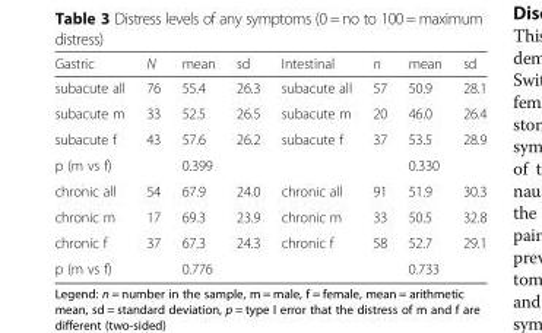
<table><thead><tr><td>Gastric</td><td>N</td><td>mean</td><td>sd</td><td>Intestinal</td><td>n</td><td>mean</td><td>sd</td></tr></thead><tbody><tr><td>subacute all</td><td>76</td><td>55.4</td><td>26.3</td><td>subacute all</td><td>57</td><td>50.9</td><td>28.1</td></tr><tr><td>subacute m</td><td>33</td><td>52.5</td><td>26.5</td><td>subacute m</td><td>20</td><td>46.0</td><td>26.4</td></tr><tr><td>subacute f</td><td>43</td><td>57.6</td><td>26.2</td><td>subacute f</td><td>37</td><td>53.5</td><td>28.9</td></tr><tr><td>p (m vs f)</td><td></td><td>0.399</td><td></td><td></td><td></td><td>0.330</td><td></td></tr><tr><td>chronic all</td><td>54</td><td>67.9</td><td>24.0</td><td>chronic all</td><td>91</td><td>51.9</td><td>30.3</td></tr><tr><td>chronic m</td><td>17</td><td>69.3</td><td>23.9</td><td>chronic m</td><td>33</td><td>50.5</td><td>32.8</td></tr><tr><td>chronic f</td><td>37</td><td>67.3</td><td>24.3</td><td>chronic f</td><td>58</td><td>52.7</td><td>29.1</td></tr><tr><td>p (m vs f)</td><td></td><td>0.776</td><td></td><td></td><td></td><td>0.733</td><td></td></tr></tbody></table>